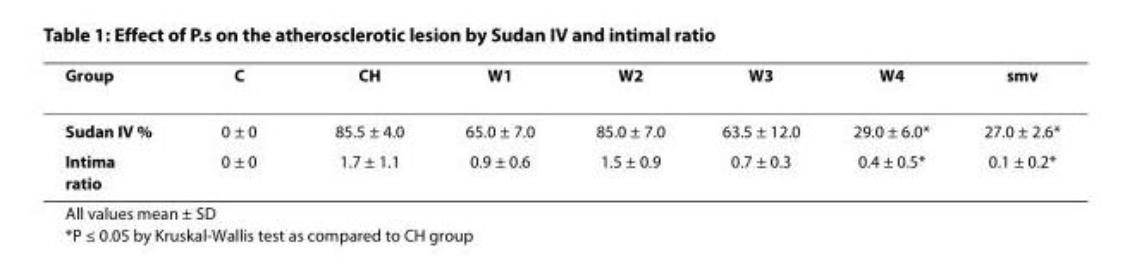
<table><thead><tr><td>Group</td><td>C</td><td>CH</td><td>W1</td><td>W2</td><td>W3</td><td>W4</td><td>smv</td></tr></thead><tbody><tr><td>Sudan IV %</td><td>0 ± 0</td><td>85.5 ± 4.0</td><td>65.0 ± 7.0</td><td>85.0 ± 7.0</td><td>63.5 ± 12.0</td><td>29.0 ± 6.0*</td><td>27.0 ± 2.6*</td></tr><tr><td>Intima ratio</td><td>0 ± 0</td><td>1.7 ± 1.1</td><td>0.9 ± 0.6</td><td>1.5 ± 0.9</td><td>0.7 ± 0.3</td><td>0.4 ± 0.5*</td><td>0.1 ± 0.2*</td></tr></tbody></table>